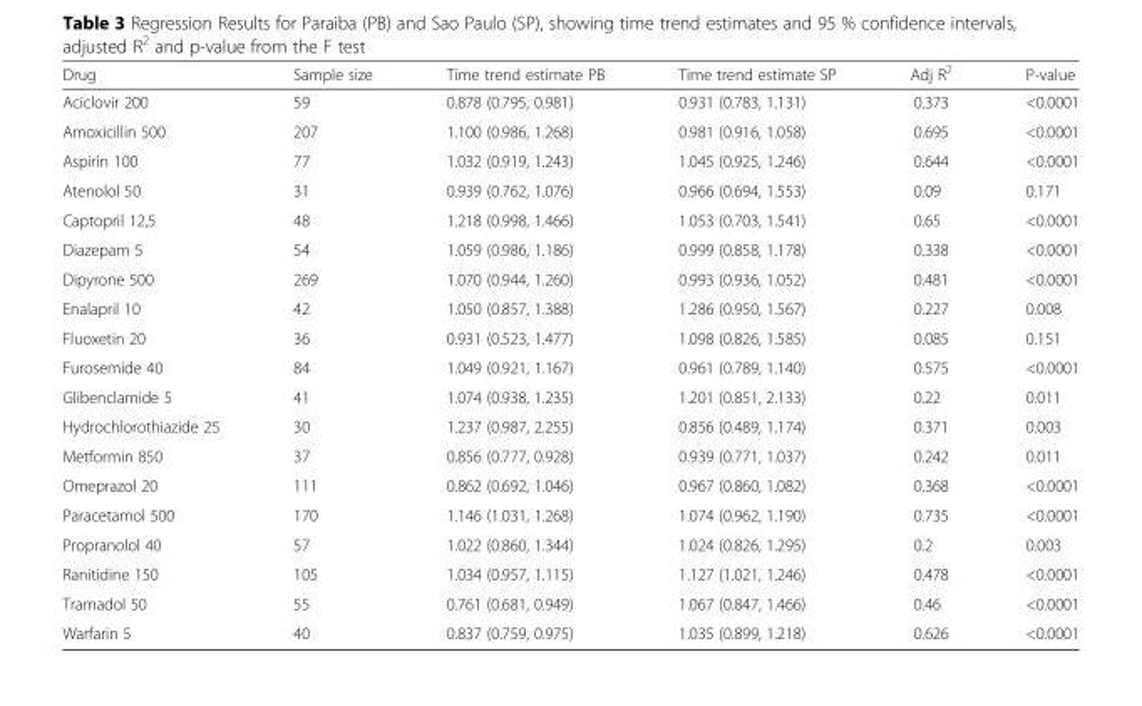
<table><thead><tr><td>Drug</td><td>Sample size</td><td>Time trend estimate PB</td><td>Time trend estimate SP</td><td>Adj R<sup>2</sup></td><td>P-value</td></tr></thead><tbody><tr><td>Aciclovir 200</td><td>59</td><td>0.878 (0.795, 0.981)</td><td>0.931 (0.783, 1.131)</td><td>0.373</td><td>&lt;0.0001</td></tr><tr><td>Amoxicillin 500</td><td>207</td><td>1.100 (0.986, 1.268)</td><td>0.981 (0.916, 1.058)</td><td>0.695</td><td>&lt;0.0001</td></tr><tr><td>Aspirin 100</td><td>77</td><td>1.032 (0.919, 1.243)</td><td>1.045 (0.925, 1.246)</td><td>0.644</td><td>&lt;0.0001</td></tr><tr><td>Atenolol 50</td><td>31</td><td>0.939 (0.762, 1.076)</td><td>0.966 (0.694, 1.553)</td><td>0.09</td><td>0.171</td></tr><tr><td>Captopril 12,5</td><td>48</td><td>1.218 (0.998, 1.466)</td><td>1.053 (0.703, 1.541)</td><td>0.65</td><td>&lt;0.0001</td></tr><tr><td>Diazepam 5</td><td>54</td><td>1.059 (0.986, 1.186)</td><td>0.999 (0.858, 1.178)</td><td>0.338</td><td>&lt;0.0001</td></tr><tr><td>Dipyrone 500</td><td>269</td><td>1.070 (0.944, 1.260)</td><td>0.993 (0.936, 1.052)</td><td>0.481</td><td>&lt;0.0001</td></tr><tr><td>Enalapril 10</td><td>42</td><td>1.050 (0.857, 1.388)</td><td>1.286 (0.950, 1.567)</td><td>0.227</td><td>0.008</td></tr><tr><td>Fluoxetin 20</td><td>36</td><td>0.931 (0.523, 1.477)</td><td>1.098 (0.826, 1.585)</td><td>0.085</td><td>0.151</td></tr><tr><td>Furosemide 40</td><td>84</td><td>1.049 (0.921, 1.167)</td><td>0.961 (0.789, 1.140)</td><td>0.575</td><td>&lt;0.0001</td></tr><tr><td>Glibenclamide 5</td><td>41</td><td>1.074 (0.938, 1.235)</td><td>1.201 (0.851, 2.133)</td><td>0.22</td><td>0.011</td></tr><tr><td>Hydrochlorothiazide 25</td><td>30</td><td>1.237 (0.987, 2.255)</td><td>0.856 (0.489, 1.174)</td><td>0.371</td><td>0.003</td></tr><tr><td>Metformin 850</td><td>37</td><td>0.856 (0.777, 0.928)</td><td>0.939 (0.771, 1.037)</td><td>0.242</td><td>0.011</td></tr><tr><td>Omeprazol 20</td><td>111</td><td>0.862 (0.692, 1.046)</td><td>0.967 (0.860, 1.082)</td><td>0.368</td><td>&lt;0.0001</td></tr><tr><td>Paracetamol 500</td><td>170</td><td>1.146 (1.031, 1.268)</td><td>1.074 (0.962, 1.190)</td><td>0.735</td><td>&lt;0.0001</td></tr><tr><td>Propranolol 40</td><td>57</td><td>1.022 (0.860, 1.344)</td><td>1.024 (0.826, 1.295)</td><td>0.2</td><td>0.003</td></tr><tr><td>Ranitidine 150</td><td>105</td><td>1.034 (0.957, 1.115)</td><td>1.127 (1.021, 1.246)</td><td>0.478</td><td>&lt;0.0001</td></tr><tr><td>Tramadol 50</td><td>55</td><td>0.761 (0.681, 0.949)</td><td>1.067 (0.847, 1.466)</td><td>0.46</td><td>&lt;0.0001</td></tr><tr><td>Warfarin 5</td><td>40</td><td>0.837 (0.759, 0.975)</td><td>1.035 (0.899, 1.218)</td><td>0.626</td><td>&lt;0.0001</td></tr></tbody></table>